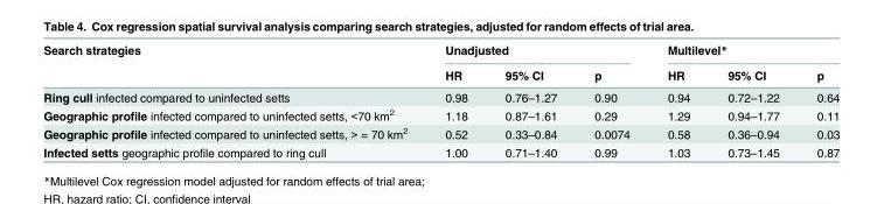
<table><thead><tr><td rowspan="2">Search strategies</td><td colspan="3">Unadjusted</td><td colspan="3">Multilevel*</td></tr><tr><td>HR</td><td>95% CI</td><td>p</td><td>HR</td><td>95% CI</td><td>p</td></tr></thead><tbody><tr><td>Ring cull infected compared to uninfected setts</td><td>0.98</td><td>0.76–1.27</td><td>0.90</td><td>0.94</td><td>0.72–1.22</td><td>0.64</td></tr><tr><td>Geographic profile infected compared to uninfected setts, &lt;70 km<sup>2</sup></td><td>1.18</td><td>0.87–1.61</td><td>0.29</td><td>1.29</td><td>0.94–1.77</td><td>0.11</td></tr><tr><td>Geographic profile infected compared to uninfected setts, &gt; = 70 km<sup>2</sup></td><td>0.52</td><td>0.33–0.84</td><td>0.0074</td><td>0.58</td><td>0.36–0.94</td><td>0.03</td></tr><tr><td>Infected setts geographic profile compared to ring cull</td><td>1.00</td><td>0.71–1.40</td><td>0.99</td><td>1.03</td><td>0.73–1.45</td><td>0.87</td></tr></tbody></table>